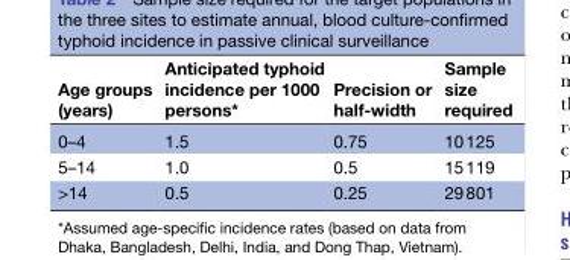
<table><thead><tr><td>Age groups (years)</td><td>Anticipated typhoid incidence per 1000 persons*</td><td>Precision or half-width</td><td>Sample size required</td></tr></thead><tbody><tr><td>0–4</td><td>1.5</td><td>0.75</td><td>10 125</td></tr><tr><td>5–14</td><td>1.0</td><td>0.5</td><td>15 119</td></tr><tr><td>&gt;14</td><td>0.5</td><td>0.25</td><td>29 801</td></tr></tbody></table>